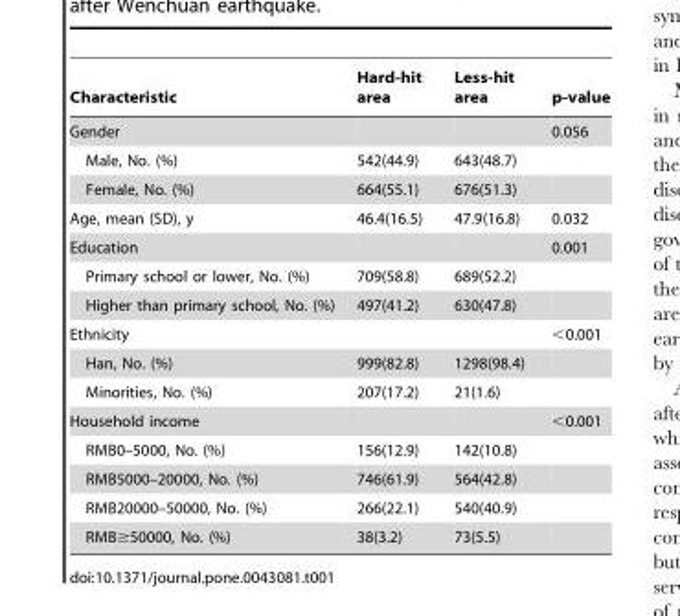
<table><thead><tr><td>Characteristic</td><td>Hard-hit area</td><td>Less-hit area</td><td>p-value</td></tr></thead><tbody><tr><td>Gender</td><td></td><td></td><td>0.056</td></tr><tr><td>Male, No. (%)</td><td>542(44.9)</td><td>643(48.7)</td><td></td></tr><tr><td>Female, No. (%)</td><td>664(55.1)</td><td>676(51.3)</td><td></td></tr><tr><td>Age, mean (SD), y</td><td>46.4(16.5)</td><td>47.9(16.8)</td><td>0.032</td></tr><tr><td>Education</td><td></td><td></td><td>0.001</td></tr><tr><td>Primary school or lower, No. (%)</td><td>709(58.8)</td><td>689(52.2)</td><td></td></tr><tr><td>Higher than primary school, No. (%)</td><td>497(41.2)</td><td>630(47.8)</td><td></td></tr><tr><td>Ethnicity</td><td></td><td></td><td>&lt;0.001</td></tr><tr><td>Han, No. (%)</td><td>999(82.8)</td><td>1298(98.4)</td><td></td></tr><tr><td>Minorities, No. (%)</td><td>207(17.2)</td><td>21(1.6)</td><td></td></tr><tr><td>Household income</td><td></td><td></td><td>&lt;0.001</td></tr><tr><td>RMB0–5000, No. (%)</td><td>156(12.9)</td><td>142(10.8)</td><td></td></tr><tr><td>RMB5000–20000, No. (%)</td><td>746(61.9)</td><td>564(42.8)</td><td></td></tr><tr><td>RMB20000–50000, No. (%)</td><td>266(22.1)</td><td>540(40.9)</td><td></td></tr><tr><td>RMB≥50000, No. (%)</td><td>38(3.2)</td><td>73(5.5)</td><td></td></tr></tbody></table>